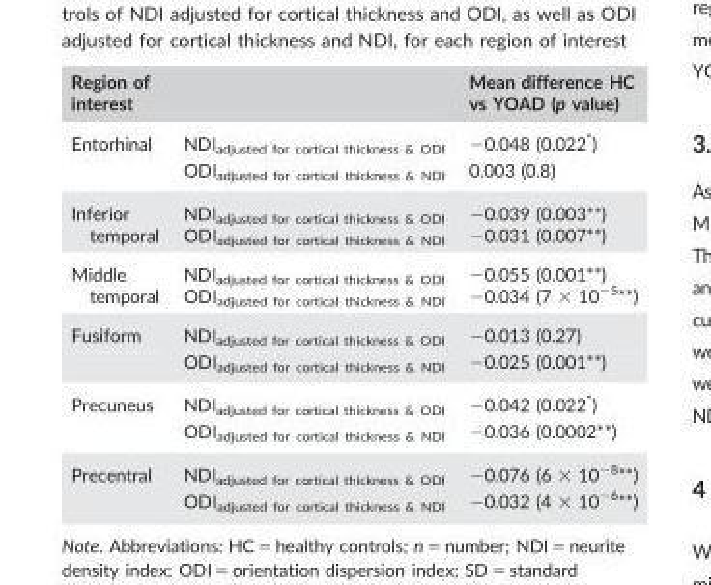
<table><thead><tr><td colspan="2">Region of interest</td><td rowspan="2">Mean difference HC vs YOAD (p value) −0.048 (0.022*)</td></tr><tr><td>Entorhinal</td><td>NDI<sub>adjusted for cortical thickness &amp; ODI</sub></td></tr></thead><tbody><tr><td></td><td>ODI<sub>adjusted for cortical thickness &amp; NDI</sub></td><td>0.003 (0.8)</td></tr><tr><td>Inferior temporal</td><td>NDI<sub>adjusted for cortical thickness &amp; ODI</sub> ODI<sub>adjusted for cortical thickness &amp; NDI</sub></td><td>−0.039 (0.003**) −0.031 (0.007**)</td></tr><tr><td>Middle temporal</td><td>NDI<sub>adjusted for cortical thickness &amp; ODI</sub> ODI<sub>adjusted for cortical thickness &amp; NDI</sub></td><td>−0.055 (0.001**) −0.034 (7 × 10<sup>−5</sup>**)</td></tr><tr><td rowspan="2">Fusiform</td><td>NDI<sub>adjusted for cortical thickness &amp; ODI</sub></td><td>−0.013 (0.27)</td></tr><tr><td>ODI<sub>adjusted for cortical thickness &amp; NDI</sub></td><td>−0.025 (0.001**)</td></tr><tr><td rowspan="2">Precuneus</td><td>NDI<sub>adjusted for cortical thickness &amp; ODI</sub></td><td>−0.042 (0.022*)</td></tr><tr><td>ODI<sub>adjusted for cortical thickness &amp; NDI</sub></td><td>−0.036 (0.0002**)</td></tr><tr><td rowspan="2">Precentral</td><td>NDI<sub>adjusted for cortical thickness &amp; ODI</sub></td><td>−0.076 (6 × 10<sup>−8</sup>**)</td></tr><tr><td>ODI<sub>adjusted for cortical thickness &amp; NDI</sub></td><td>−0.032 (4 × 10<sup>−6</sup>**)</td></tr></tbody></table>